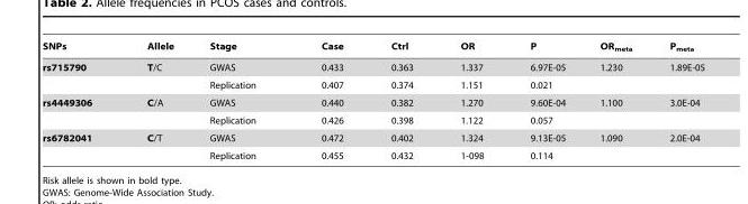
<table><thead><tr><td>SNPs</td><td>Allele</td><td>Stage</td><td>Case</td><td>Ctrl</td><td>OR</td><td>P</td><td>OR<sub>meta</sub></td><td>P<sub>meta</sub></td></tr></thead><tbody><tr><td rowspan="2">rs715790</td><td>T/C</td><td>GWAS</td><td>0.433</td><td>0.363</td><td>1.337</td><td>6.97E-05</td><td>1.230</td><td>1.89E-05</td></tr><tr><td></td><td>Replication</td><td>0.407</td><td>0.374</td><td>1.151</td><td>0.021</td><td></td><td></td></tr><tr><td rowspan="2">rs4449306</td><td>C/A</td><td>GWAS</td><td>0.440</td><td>0.382</td><td>1.270</td><td>9.60E-04</td><td>1.100</td><td>3.0E-04</td></tr><tr><td></td><td>Replication</td><td>0.426</td><td>0.398</td><td>1.122</td><td>0.057</td><td></td><td></td></tr><tr><td rowspan="2">rs6782041</td><td>C/T</td><td>GWAS</td><td>0.472</td><td>0.402</td><td>1.324</td><td>9.13E-05</td><td>1.090</td><td>2.0E-04</td></tr><tr><td></td><td>Replication</td><td>0.455</td><td>0.432</td><td>1-098</td><td>0.114</td><td></td><td></td></tr></tbody></table>